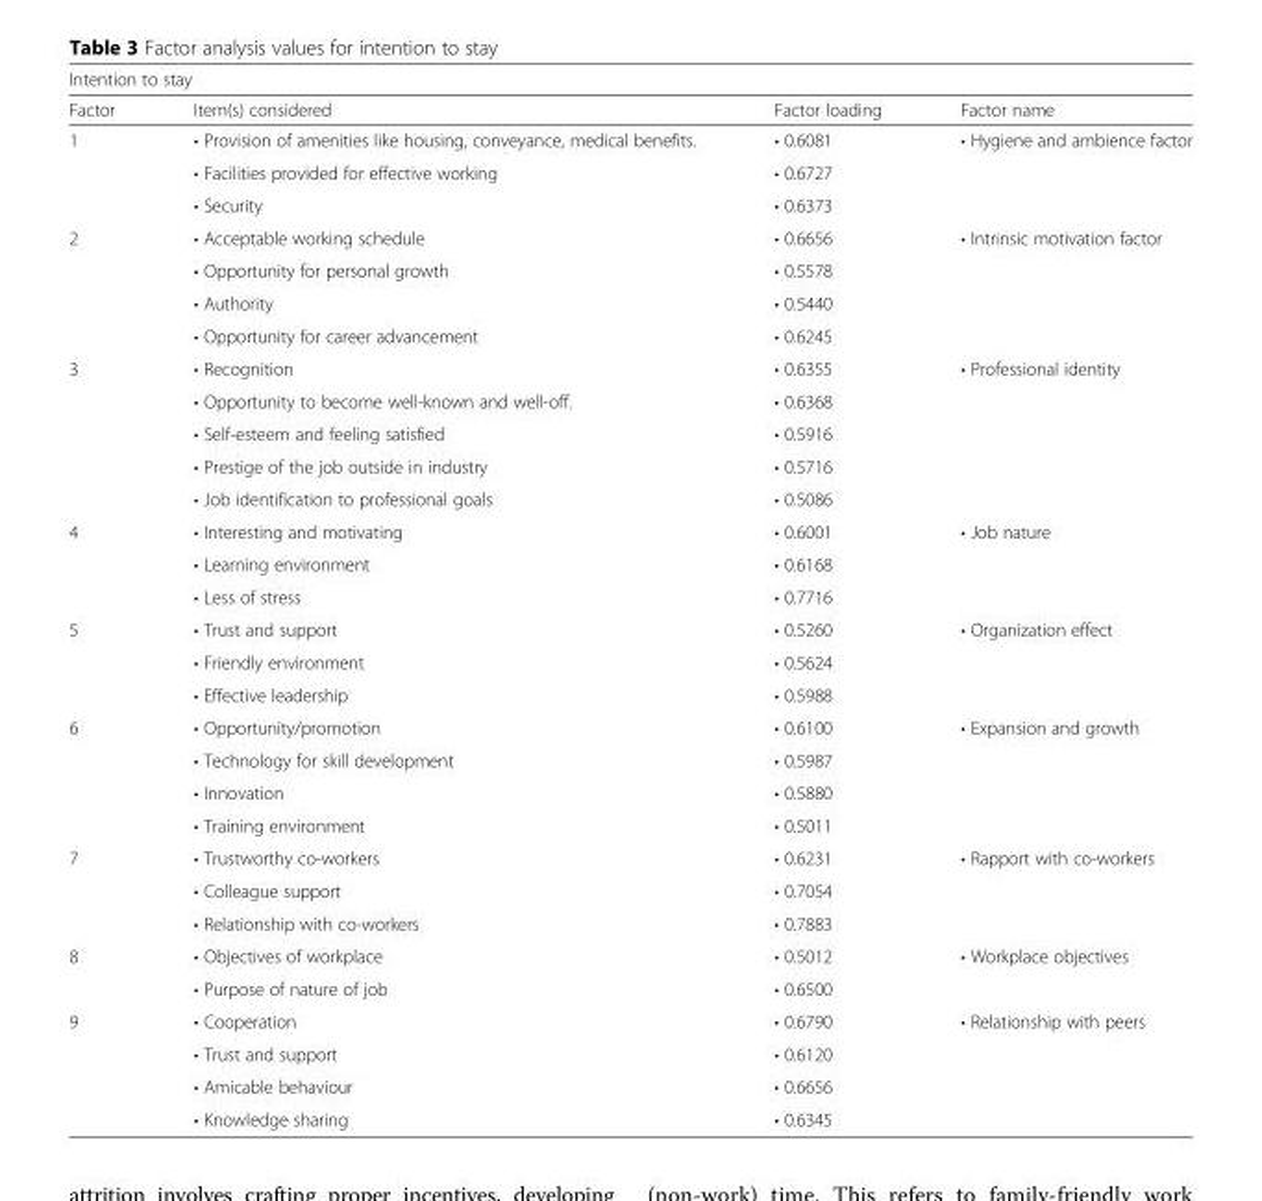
<table><thead><tr><td colspan="4">Intention to stay</td></tr><tr><td>Factor</td><td>Item(s) considered</td><td>Factor loading</td><td>Factor name</td></tr></thead><tbody><tr><td rowspan="3">1</td><td>• Provision of amenities like housing, conveyance, medical benefits.</td><td>• 0.6081</td><td rowspan="3">• Hygiene and ambience factor</td></tr><tr><td>• Facilities provided for effective working</td><td>• 0.6727</td></tr><tr><td>• Security</td><td>• 0.6373</td></tr><tr><td rowspan="4">2</td><td>• Acceptable working schedule</td><td>• 0.6656</td><td rowspan="4">• Intrinsic motivation factor</td></tr><tr><td>• Opportunity for personal growth</td><td>• 0.5578</td></tr><tr><td>• Authority</td><td>• 0.5440</td></tr><tr><td>• Opportunity for career advancement</td><td>• 0.6245</td></tr><tr><td rowspan="5">3</td><td>• Recognition</td><td>• 0.6355</td><td rowspan="5">• Professional identity</td></tr><tr><td>• Opportunity to become well-known and well-off.</td><td>• 0.6368</td></tr><tr><td>• Self-esteem and feeling satisfied</td><td>• 0.5916</td></tr><tr><td>• Prestige of the job outside in industry</td><td>• 0.5716</td></tr><tr><td>• Job identification to professional goals</td><td>• 0.5086</td></tr><tr><td rowspan="3">4</td><td>• Interesting and motivating</td><td>• 0.6001</td><td rowspan="3">• Job nature</td></tr><tr><td>• Learning environment</td><td>• 0.6168</td></tr><tr><td>• Less of stress</td><td>• 0.7716</td></tr><tr><td rowspan="3">5</td><td>• Trust and support</td><td>• 0.5260</td><td rowspan="3">• Organization effect</td></tr><tr><td>• Friendly environment</td><td>• 0.5624</td></tr><tr><td>• Effective leadership</td><td>• 0.5988</td></tr><tr><td rowspan="4">6</td><td>• Opportunity/promotion</td><td>• 0.6100</td><td rowspan="4">• Expansion and growth</td></tr><tr><td>• Technology for skill development</td><td>• 0.5987</td></tr><tr><td>• Innovation</td><td>• 0.5880</td></tr><tr><td>• Training environment</td><td>• 0.5011</td></tr><tr><td rowspan="3">7</td><td>• Trustworthy co-workers</td><td>• 0.6231</td><td rowspan="3">• Rapport with co-workers</td></tr><tr><td>• Colleague support</td><td>• 0.7054</td></tr><tr><td>• Relationship with co-workers</td><td>• 0.7883</td></tr><tr><td rowspan="2">8</td><td>• Objectives of workplace</td><td>• 0.5012</td><td rowspan="2">• Workplace objectives</td></tr><tr><td>• Purpose of nature of job</td><td>• 0.6500</td></tr><tr><td rowspan="4">9</td><td>• Cooperation</td><td>• 0.6790</td><td rowspan="4">• Relationship with peers</td></tr><tr><td>• Trust and support</td><td>• 0.6120</td></tr><tr><td>• Amicable behaviour</td><td>• 0.6656</td></tr><tr><td>• Knowledge sharing</td><td>• 0.6345</td></tr></tbody></table>